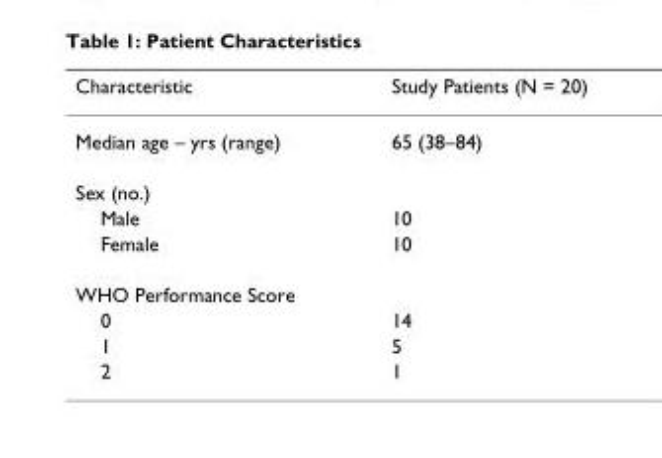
<table><thead><tr><td>Characteristic</td><td>Study Patients (N = 20)</td></tr></thead><tbody><tr><td>Median age – yrs (range)</td><td>65 (38–84)</td></tr><tr><td colspan="2">Sex (no.)</td></tr><tr><td>Male</td><td>10</td></tr><tr><td>Female</td><td>10</td></tr><tr><td colspan="2">WHO Performance Score</td></tr><tr><td>0</td><td>14</td></tr><tr><td>1</td><td>5</td></tr><tr><td>2</td><td>1</td></tr></tbody></table>